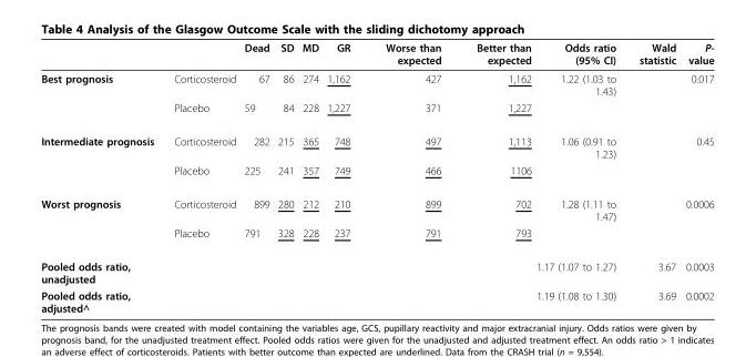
<table><thead><tr><td></td><td></td><td>Dead</td><td>SD</td><td>MD</td><td>GR</td><td>Worse than expected</td><td>Better than expected</td><td>Odds ratio (95% CI)</td><td>Wald statistic</td><td>P- value</td></tr></thead><tbody><tr><td rowspan="2">Best prognosis</td><td>Corticosteroid</td><td>67</td><td>86</td><td>274</td><td>1,162</td><td>427</td><td>1,162</td><td>1.22 (1.03 to 1.43)</td><td></td><td>0.017</td></tr><tr><td>Placebo</td><td>59</td><td>84</td><td>228</td><td>1,227</td><td>371</td><td>1,227</td><td></td><td></td><td></td></tr><tr><td rowspan="2">Intermediate prognosis</td><td>Corticosteroid</td><td>282</td><td>215</td><td>365</td><td>748</td><td>497</td><td>1,113</td><td>1.06 (0.91 to 1.23)</td><td></td><td>0.45</td></tr><tr><td>Placebo</td><td>225</td><td>241</td><td>357</td><td>749</td><td>466</td><td>1106</td><td></td><td></td><td></td></tr><tr><td rowspan="2">Worst prognosis</td><td>Corticosteroid</td><td>899</td><td>280</td><td>212</td><td>210</td><td>899</td><td>702</td><td>1.28 (1.11 to 1.47)</td><td></td><td>0.0006</td></tr><tr><td>Placebo</td><td>791</td><td>328</td><td>228</td><td>237</td><td>791</td><td>793</td><td></td><td></td><td></td></tr><tr><td>Pooled odds ratio, unadjusted</td><td colspan="8">1.17 (1.07 to 1.27)</td><td>3.67</td><td>0.0003</td></tr><tr><td>Pooled odds ratio, adjusted^</td><td colspan="8">1.19 (1.08 to 1.30)</td><td>3.69</td><td>0.0002</td></tr></tbody></table>